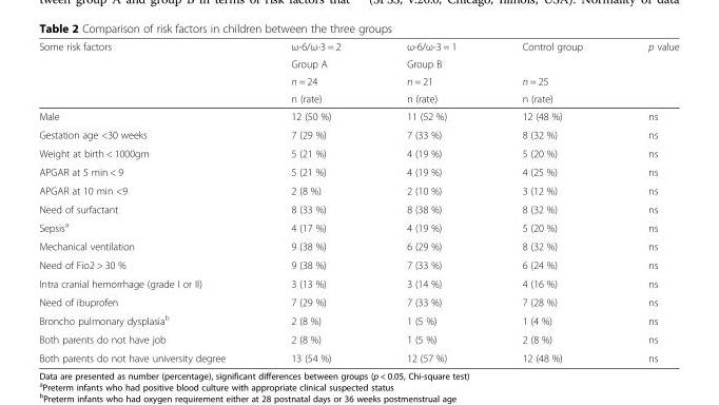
<table><thead><tr><td rowspan="4">Some risk factors</td><td rowspan="4">ω-6/ω-3 = 2 Group A n = 24 n (rate)</td><td rowspan="4">ω-6/ω-3 = 1 Group B n = 21 n (rate)</td><td rowspan="4">Control group n = 25 n (rate)</td><td rowspan="4">p value</td></tr><tr></tr><tr></tr><tr></tr></thead><tbody><tr><td>Male</td><td>12 (50 %)</td><td>11 (52 %)</td><td>12 (48 %)</td><td>ns</td></tr><tr><td>Gestation age &lt;30 weeks</td><td>7 (29 %)</td><td>7 (33 %)</td><td>8 (32 %)</td><td>ns</td></tr><tr><td>Weight at birth &lt; 1000gm</td><td>5 (21 %)</td><td>4 (19 %)</td><td>5 (20 %)</td><td>ns</td></tr><tr><td>APGAR at 5 min &lt; 9</td><td>5 (21 %)</td><td>4 (19 %)</td><td>4 (25 %)</td><td>ns</td></tr><tr><td>APGAR at 10 min &lt;9</td><td>2 (8 %)</td><td>2 (10 %)</td><td>3 (12 %)</td><td>ns</td></tr><tr><td>Need of surfactant</td><td>8 (33 %)</td><td>8 (38 %)</td><td>8 (32 %)</td><td>ns</td></tr><tr><td>Sepsis<sup>a</sup></td><td>4 (17 %)</td><td>4 (19 %)</td><td>5 (20 %)</td><td>ns</td></tr><tr><td>Mechanical ventilation</td><td>9 (38 %)</td><td>6 (29 %)</td><td>8 (32 %)</td><td>ns</td></tr><tr><td>Need of Fio2 &gt; 30 %</td><td>9 (38 %)</td><td>7 (33 %)</td><td>6 (24 %)</td><td>ns</td></tr><tr><td>Intra cranial hemorrhage (grade I or II)</td><td>3 (13 %)</td><td>3 (14 %)</td><td>4 (16 %)</td><td>ns</td></tr><tr><td>Need of ibuprofen</td><td>7 (29 %)</td><td>7 (33 %)</td><td>7 (28 %)</td><td>ns</td></tr><tr><td>Broncho pulmonary dysplasia<sup>b</sup></td><td>2 (8 %)</td><td>1 (5 %)</td><td>1 (4 %)</td><td>ns</td></tr><tr><td>Both parents do not have job</td><td>2 (8 %)</td><td>1 (5 %)</td><td>2 (8 %)</td><td>ns</td></tr><tr><td>Both parents do not have university degree</td><td>13 (54 %)</td><td>12 (57 %)</td><td>12 (48 %)</td><td>ns</td></tr></tbody></table>